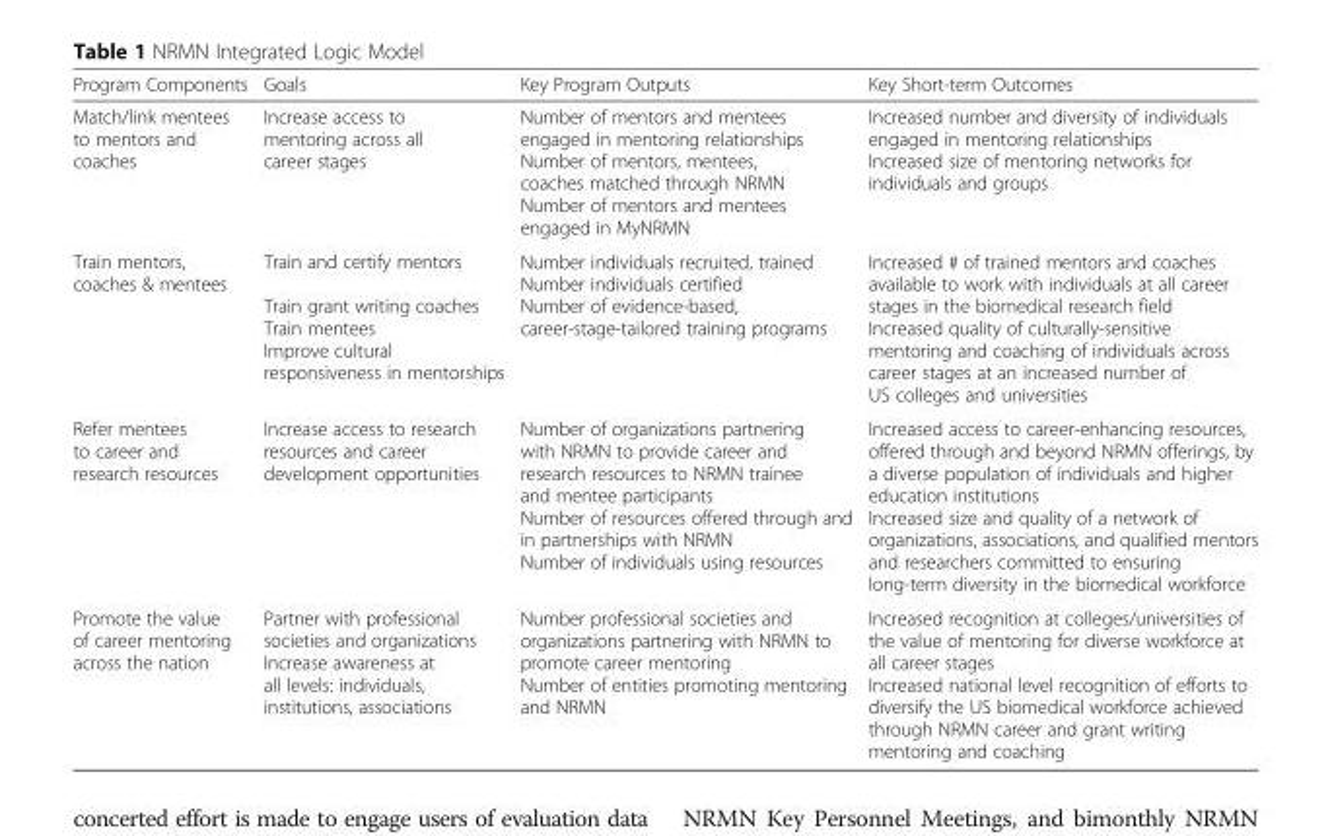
<table><thead><tr><td>Program Components</td><td>Goals</td><td>Key Program Outputs</td><td>Key Short-term Outcomes</td></tr></thead><tbody><tr><td>Match/link mentees to mentors and coaches</td><td>Increase access to mentoring across all career stages</td><td>Number of mentors and mentees engaged in mentoring relationships Number of mentors, mentees, coaches matched through NRMN Number of mentors and mentees engaged in MyNRMN</td><td>Increased number and diversity of individuals engaged in mentoring relationships Increased size of mentoring networks for individuals and groups</td></tr><tr><td>Train mentors, coaches &amp; mentees</td><td>Train and certify mentors Train grant writing coaches Train mentees Improve cultural responsiveness in mentorships</td><td>Number individuals recruited, trained Number individuals certified Number of evidence-based, career-stage-tailored training programs</td><td>Increased # of trained mentors and coaches available to work with individuals at all career stages in the biomedical research field Increased quality of culturally-sensitive mentoring and coaching of individuals across career stages at an increased number of US colleges and universities</td></tr><tr><td>Refer mentees to career and research resources</td><td>Increase access to research resources and career development opportunities</td><td>Number of organizations partnering with NRMN to provide career and research resources to NRMN trainee and mentee participants Number of resources offered through and in partnerships with NRMN Number of individuals using resources</td><td>Increased access to career-enhancing resources, offered through and beyond NRMN offerings, by a diverse population of individuals and higher education institutions Increased size and quality of a network of organizations, associations, and qualified mentors and researchers committed to ensuring long-term diversity in the biomedical workforce</td></tr><tr><td>Promote the value of career mentoring across the nation</td><td>Partner with professional societies and organizations Increase awareness at all levels: individuals, institutions, associations</td><td>Number professional societies and organizations partnering with NRMN to promote career mentoring Number of entities promoting mentoring and NRMN</td><td>Increased recognition at colleges/universities of the value of mentoring for diverse workforce at all career stages Increased national level recognition of efforts to diversify the US biomedical workforce achieved through NRMN career and grant writing mentoring and coaching</td></tr></tbody></table>